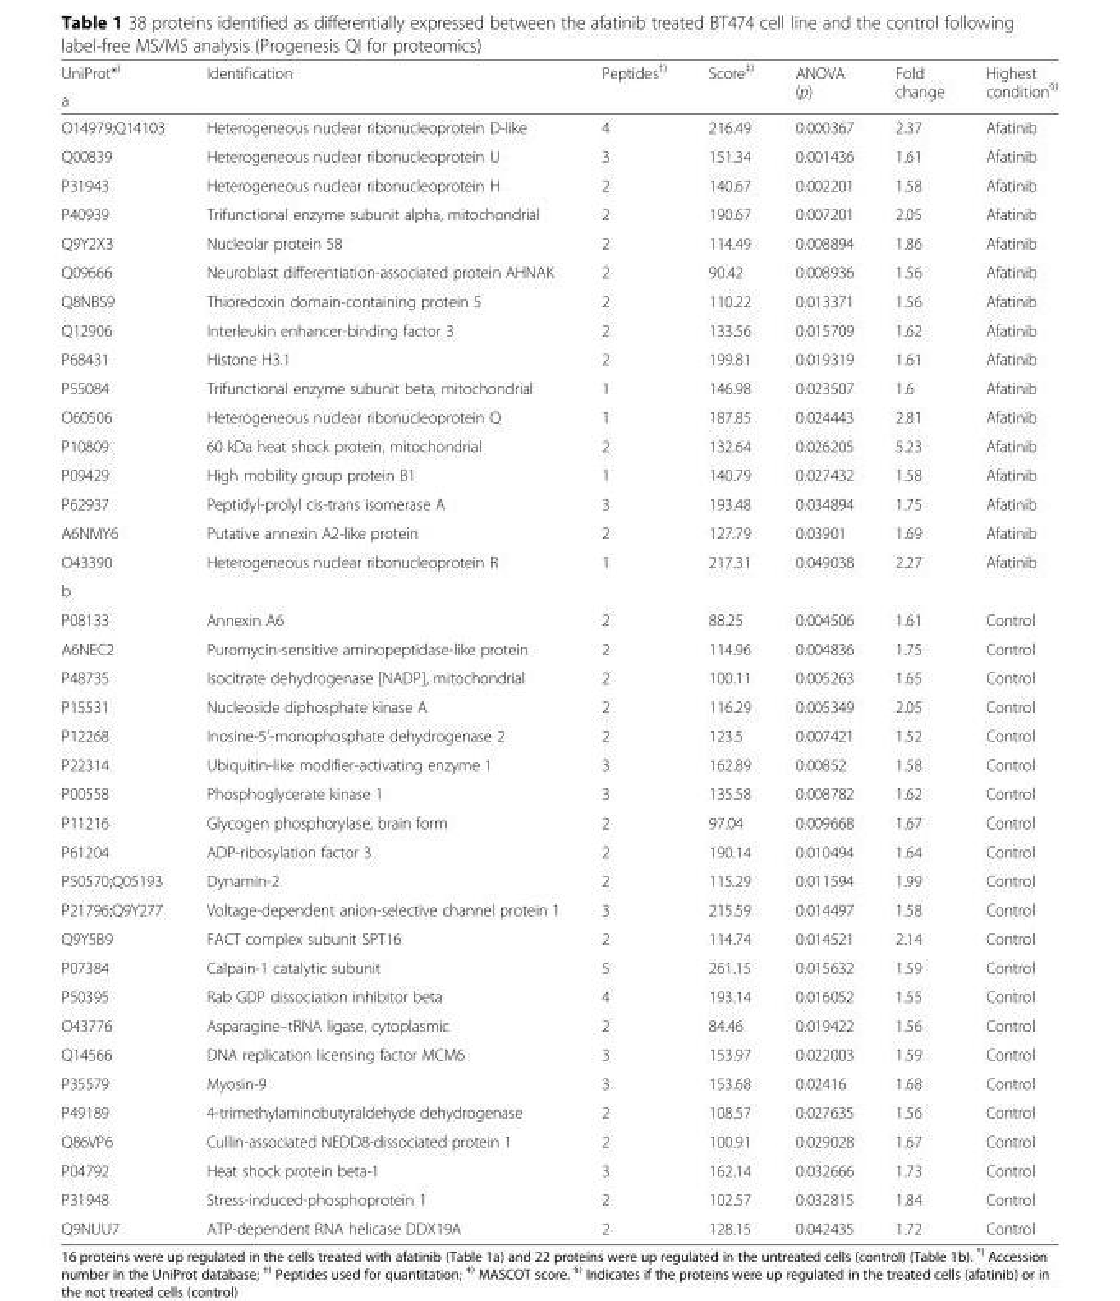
<table><thead><tr><td rowspan="2">UniProt*<sup>)</sup> a</td><td rowspan="2">Identification</td><td rowspan="2">Peptides<sup>†)</sup></td><td rowspan="2">Score<sup>‡)</sup></td><td rowspan="2">ANOVA (p)</td><td rowspan="2">Fold change</td><td rowspan="2">Highest condition<sup>§)</sup></td></tr><tr></tr></thead><tbody><tr><td>O14979;Q14103</td><td>Heterogeneous nuclear ribonucleoprotein D-like</td><td>4</td><td>216.49</td><td>0.000367</td><td>2.37</td><td>Afatinib</td></tr><tr><td>Q00839</td><td>Heterogeneous nuclear ribonucleoprotein U</td><td>3</td><td>151.34</td><td>0.001436</td><td>1.61</td><td>Afatinib</td></tr><tr><td>P31943</td><td>Heterogeneous nuclear ribonucleoprotein H</td><td>2</td><td>140.67</td><td>0.002201</td><td>1.58</td><td>Afatinib</td></tr><tr><td>P40939</td><td>Trifunctional enzyme subunit alpha, mitochondrial</td><td>2</td><td>190.67</td><td>0.007201</td><td>2.05</td><td>Afatinib</td></tr><tr><td>Q9Y2X3</td><td>Nucleolar protein 58</td><td>2</td><td>114.49</td><td>0.008894</td><td>1.86</td><td>Afatinib</td></tr><tr><td>Q09666</td><td>Neuroblast differentiation-associated protein AHNAK</td><td>2</td><td>90.42</td><td>0.008936</td><td>1.56</td><td>Afatinib</td></tr><tr><td>Q8NBS9</td><td>Thioredoxin domain-containing protein 5</td><td>2</td><td>110.22</td><td>0.013371</td><td>1.56</td><td>Afatinib</td></tr><tr><td>Q12906</td><td>Interleukin enhancer-binding factor 3</td><td>2</td><td>133.56</td><td>0.015709</td><td>1.62</td><td>Afatinib</td></tr><tr><td>P68431</td><td>Histone H3.1</td><td>2</td><td>199.81</td><td>0.019319</td><td>1.61</td><td>Afatinib</td></tr><tr><td>P55084</td><td>Trifunctional enzyme subunit beta, mitochondrial</td><td>1</td><td>146.98</td><td>0.023507</td><td>1.6</td><td>Afatinib</td></tr><tr><td>O60506</td><td>Heterogeneous nuclear ribonucleoprotein Q</td><td>1</td><td>187.85</td><td>0.024443</td><td>2.81</td><td>Afatinib</td></tr><tr><td>P10809</td><td>60 kDa heat shock protein, mitochondrial</td><td>2</td><td>132.64</td><td>0.026205</td><td>5.23</td><td>Afatinib</td></tr><tr><td>P09429</td><td>High mobility group protein B1</td><td>1</td><td>140.79</td><td>0.027432</td><td>1.58</td><td>Afatinib</td></tr><tr><td>P62937</td><td>Peptidyl-prolyl cis-trans isomerase A</td><td>3</td><td>193.48</td><td>0.034894</td><td>1.75</td><td>Afatinib</td></tr><tr><td>A6NMY6</td><td>Putative annexin A2-like protein</td><td>2</td><td>127.79</td><td>0.03901</td><td>1.69</td><td>Afatinib</td></tr><tr><td>O43390</td><td>Heterogeneous nuclear ribonucleoprotein R</td><td>1</td><td>217.31</td><td>0.049038</td><td>2.27</td><td>Afatinib</td></tr><tr><td colspan="7">b</td></tr><tr><td>P08133</td><td>Annexin A6</td><td>2</td><td>88.25</td><td>0.004506</td><td>1.61</td><td>Control</td></tr><tr><td>A6NEC2</td><td>Puromycin-sensitive aminopeptidase-like protein</td><td>2</td><td>114.96</td><td>0.004836</td><td>1.75</td><td>Control</td></tr><tr><td>P48735</td><td>Isocitrate dehydrogenase [NADP], mitochondrial</td><td>2</td><td>100.11</td><td>0.005263</td><td>1.65</td><td>Control</td></tr><tr><td>P15531</td><td>Nucleoside diphosphate kinase A</td><td>2</td><td>116.29</td><td>0.005349</td><td>2.05</td><td>Control</td></tr><tr><td>P12268</td><td>Inosine-5&#x27;-monophosphate dehydrogenase 2</td><td>2</td><td>123.5</td><td>0.007421</td><td>1.52</td><td>Control</td></tr><tr><td>P22314</td><td>Ubiquitin-like modifier-activating enzyme 1</td><td>3</td><td>162.89</td><td>0.00852</td><td>1.58</td><td>Control</td></tr><tr><td>P00558</td><td>Phosphoglycerate kinase 1</td><td>3</td><td>135.58</td><td>0.008782</td><td>1.62</td><td>Control</td></tr><tr><td>P11216</td><td>Glycogen phosphorylase, brain form</td><td>2</td><td>97.04</td><td>0.009668</td><td>1.67</td><td>Control</td></tr><tr><td>P61204</td><td>ADP-ribosylation factor 3</td><td>2</td><td>190.14</td><td>0.010494</td><td>1.64</td><td>Control</td></tr><tr><td>P50570;Q05193</td><td>Dynamin-2</td><td>2</td><td>115.29</td><td>0.011594</td><td>1.99</td><td>Control</td></tr><tr><td>P21796;Q9Y277</td><td>Voltage-dependent anion-selective channel protein 1</td><td>3</td><td>215.59</td><td>0.014497</td><td>1.58</td><td>Control</td></tr><tr><td>Q9Y5B9</td><td>FACT complex subunit SPT16</td><td>2</td><td>114.74</td><td>0.014521</td><td>2.14</td><td>Control</td></tr><tr><td>P07384</td><td>Calpain-1 catalytic subunit</td><td>5</td><td>261.15</td><td>0.015632</td><td>1.59</td><td>Control</td></tr><tr><td>P50395</td><td>Rab GDP dissociation inhibitor beta</td><td>4</td><td>193.14</td><td>0.016052</td><td>1.55</td><td>Control</td></tr><tr><td>O43776</td><td>Asparagine–tRNA ligase, cytoplasmic</td><td>2</td><td>84.46</td><td>0.019422</td><td>1.56</td><td>Control</td></tr><tr><td>Q14566</td><td>DNA replication licensing factor MCM6</td><td>3</td><td>153.97</td><td>0.022003</td><td>1.59</td><td>Control</td></tr><tr><td>P35579</td><td>Myosin-9</td><td>3</td><td>153.68</td><td>0.02416</td><td>1.68</td><td>Control</td></tr><tr><td>P49189</td><td>4-trimethylaminobutyraldehyde dehydrogenase</td><td>2</td><td>108.57</td><td>0.027635</td><td>1.56</td><td>Control</td></tr><tr><td>Q86VP6</td><td>Cullin-associated NEDD8-dissociated protein 1</td><td>2</td><td>100.91</td><td>0.029028</td><td>1.67</td><td>Control</td></tr><tr><td>P04792</td><td>Heat shock protein beta-1</td><td>3</td><td>162.14</td><td>0.032666</td><td>1.73</td><td>Control</td></tr><tr><td>P31948</td><td>Stress-induced-phosphoprotein 1</td><td>2</td><td>102.57</td><td>0.032815</td><td>1.84</td><td>Control</td></tr><tr><td>Q9NUU7</td><td>ATP-dependent RNA helicase DDX19A</td><td>2</td><td>128.15</td><td>0.042435</td><td>1.72</td><td>Control</td></tr></tbody></table>